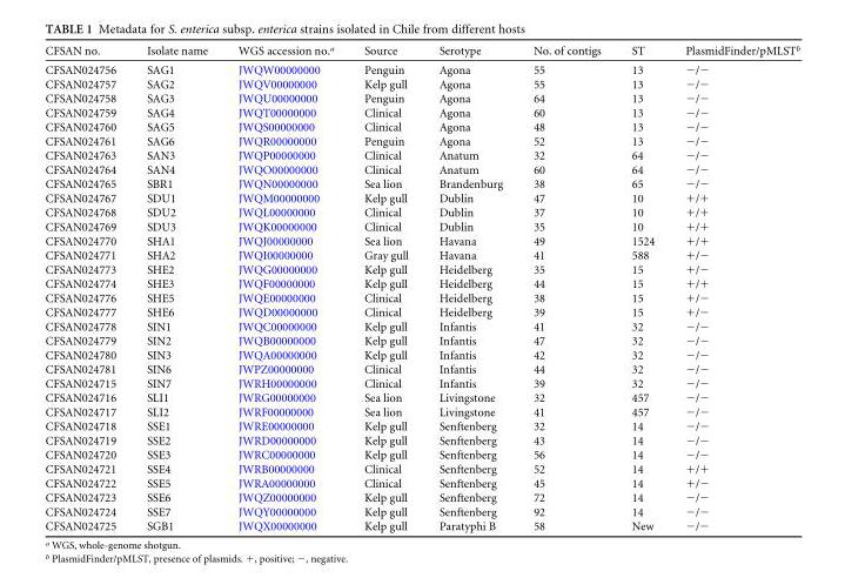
<table><thead><tr><td>CFSAN no.</td><td>Isolate name</td><td>WGS accession no.<sup>a</sup></td><td>Source</td><td>Serotype</td><td>No. of contigs</td><td>ST</td><td>PlasmidFinder/pMLST<sup>b</sup></td></tr></thead><tbody><tr><td>CFSAN024756</td><td>SAG1</td><td>JWQW00000000</td><td>Penguin</td><td>Agona</td><td>55</td><td>13</td><td>−/−</td></tr><tr><td>CFSAN024757</td><td>SAG2</td><td>JWQV00000000</td><td>Kelp gull</td><td>Agona</td><td>55</td><td>13</td><td>−/−</td></tr><tr><td>CFSAN024758</td><td>SAG3</td><td>JWQU00000000</td><td>Penguin</td><td>Agona</td><td>64</td><td>13</td><td>−/−</td></tr><tr><td>CFSAN024759</td><td>SAG4</td><td>JWQT00000000</td><td>Clinical</td><td>Agona</td><td>60</td><td>13</td><td>−/−</td></tr><tr><td>CFSAN024760</td><td>SAG5</td><td>JWQS00000000</td><td>Clinical</td><td>Agona</td><td>48</td><td>13</td><td>−/−</td></tr><tr><td>CFSAN024761</td><td>SAG6</td><td>JWQR00000000</td><td>Penguin</td><td>Agona</td><td>52</td><td>13</td><td>−/−</td></tr><tr><td>CFSAN024763</td><td>SAN3</td><td>JWQP00000000</td><td>Clinical</td><td>Anatum</td><td>32</td><td>64</td><td>−/−</td></tr><tr><td>CFSAN024764</td><td>SAN4</td><td>JWQO00000000</td><td>Clinical</td><td>Anatum</td><td>60</td><td>64</td><td>−/−</td></tr><tr><td>CFSAN024765</td><td>SBR1</td><td>JWQN00000000</td><td>Sea lion</td><td>Brandenburg</td><td>38</td><td>65</td><td>−/−</td></tr><tr><td>CFSAN024767</td><td>SDU1</td><td>JWQM00000000</td><td>Kelp gull</td><td>Dublin</td><td>47</td><td>10</td><td>+/+</td></tr><tr><td>CFSAN024768</td><td>SDU2</td><td>JWQL00000000</td><td>Clinical</td><td>Dublin</td><td>37</td><td>10</td><td>+/+</td></tr><tr><td>CFSAN024769</td><td>SDU3</td><td>JWQK00000000</td><td>Clinical</td><td>Dublin</td><td>35</td><td>10</td><td>+/+</td></tr><tr><td>CFSAN024770</td><td>SHA1</td><td>JWQJ00000000</td><td>Sea lion</td><td>Havana</td><td>49</td><td>1524</td><td>+/+</td></tr><tr><td>CFSAN024771</td><td>SHA2</td><td>JWQI00000000</td><td>Gray gull</td><td>Havana</td><td>41</td><td>588</td><td>+/−</td></tr><tr><td>CFSAN024773</td><td>SHE2</td><td>JWQG00000000</td><td>Kelp gull</td><td>Heidelberg</td><td>35</td><td>15</td><td>+/−</td></tr><tr><td>CFSAN024774</td><td>SHE3</td><td>JWQF00000000</td><td>Kelp gull</td><td>Heidelberg</td><td>44</td><td>15</td><td>+/+</td></tr><tr><td>CFSAN024776</td><td>SHE5</td><td>JWQE00000000</td><td>Clinical</td><td>Heidelberg</td><td>38</td><td>15</td><td>+/−</td></tr><tr><td>CFSAN024777</td><td>SHE6</td><td>JWQD00000000</td><td>Clinical</td><td>Heidelberg</td><td>39</td><td>15</td><td>+/−</td></tr><tr><td>CFSAN024778</td><td>SIN1</td><td>JWQC00000000</td><td>Kelp gull</td><td>Infantis</td><td>41</td><td>32</td><td>−/−</td></tr><tr><td>CFSAN024779</td><td>SIN2</td><td>JWQB00000000</td><td>Kelp gull</td><td>Infantis</td><td>47</td><td>32</td><td>−/−</td></tr><tr><td>CFSAN024780</td><td>SIN3</td><td>JWQA00000000</td><td>Kelp gull</td><td>Infantis</td><td>42</td><td>32</td><td>−/−</td></tr><tr><td>CFSAN024781</td><td>SIN6</td><td>JWPZ00000000</td><td>Clinical</td><td>Infantis</td><td>44</td><td>32</td><td>−/−</td></tr><tr><td>CFSAN024715</td><td>SIN7</td><td>JWRH00000000</td><td>Clinical</td><td>Infantis</td><td>39</td><td>32</td><td>−/−</td></tr><tr><td>CFSAN024716</td><td>SLI1</td><td>JWRG00000000</td><td>Sea lion</td><td>Livingstone</td><td>32</td><td>457</td><td>−/−</td></tr><tr><td>CFSAN024717</td><td>SLI2</td><td>JWRF00000000</td><td>Sea lion</td><td>Livingstone</td><td>41</td><td>457</td><td>−/−</td></tr><tr><td>CFSAN024718</td><td>SSE1</td><td>JWRE00000000</td><td>Kelp gull</td><td>Senftenberg</td><td>32</td><td>14</td><td>−/−</td></tr><tr><td>CFSAN024719</td><td>SSE2</td><td>JWRD00000000</td><td>Kelp gull</td><td>Senftenberg</td><td>43</td><td>14</td><td>−/−</td></tr><tr><td>CFSAN024720</td><td>SSE3</td><td>JWRC00000000</td><td>Kelp gull</td><td>Senftenberg</td><td>56</td><td>14</td><td>−/−</td></tr><tr><td>CFSAN024721</td><td>SSE4</td><td>JWRB00000000</td><td>Clinical</td><td>Senftenberg</td><td>52</td><td>14</td><td>+/+</td></tr><tr><td>CFSAN024722</td><td>SSE5</td><td>JWRA00000000</td><td>Clinical</td><td>Senftenberg</td><td>45</td><td>14</td><td>+/−</td></tr><tr><td>CFSAN024723</td><td>SSE6</td><td>JWQZ00000000</td><td>Kelp gull</td><td>Senftenberg</td><td>72</td><td>14</td><td>−/−</td></tr><tr><td>CFSAN024724</td><td>SSE7</td><td>JWQY00000000</td><td>Kelp gull</td><td>Senftenberg</td><td>92</td><td>14</td><td>−/−</td></tr><tr><td>CFSAN024725</td><td>SGB1</td><td>JWQX00000000</td><td>Kelp gull</td><td>Paratyphi B</td><td>58</td><td>New</td><td>−/−</td></tr></tbody></table>